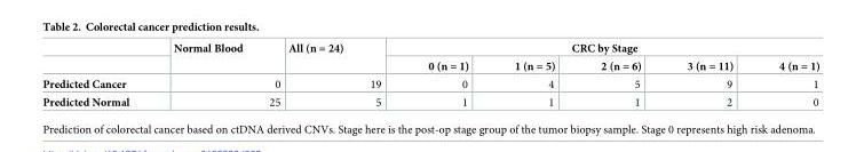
<table><thead><tr><td rowspan="2"></td><td rowspan="2">Normal Blood</td><td rowspan="2">All (n = 24)</td><td colspan="5">CRC by Stage</td></tr><tr><td>0 (n = 1)</td><td>1 (n = 5)</td><td>2 (n = 6)</td><td>3 (n = 11)</td><td>4 (n = 1)</td></tr></thead><tbody><tr><td>Predicted Cancer</td><td>0</td><td>19</td><td>0</td><td>4</td><td>5</td><td>9</td><td>1</td></tr><tr><td>Predicted Normal</td><td>25</td><td>5</td><td>1</td><td>1</td><td>1</td><td>2</td><td>0</td></tr></tbody></table>